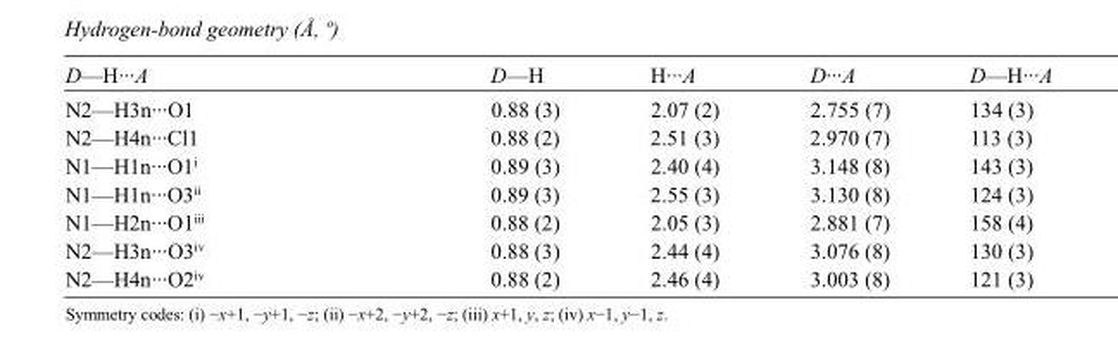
<table><tbody><tr><td>D—H···A</td><td>D—H</td><td>H···A</td><td>D···A</td><td>D—H···A</td></tr><tr><td>N2—H3n···O1</td><td>0.88 (3)</td><td>2.07 (2)</td><td>2.755 (7)</td><td>134 (3)</td></tr><tr><td>N2—H4n···Cl1</td><td>0.88 (2)</td><td>2.51 (3)</td><td>2.970 (7)</td><td>113 (3)</td></tr><tr><td>N1—H1n···O1<sup>i</sup></td><td>0.89 (3)</td><td>2.40 (4)</td><td>3.148 (8)</td><td>143 (3)</td></tr><tr><td>N1—H1n···O3<sup>ii</sup></td><td>0.89 (3)</td><td>2.55 (3)</td><td>3.130 (8)</td><td>124 (3)</td></tr><tr><td>N1—H2n···O1<sup>iii</sup></td><td>0.88 (2)</td><td>2.05 (3)</td><td>2.881 (7)</td><td>158 (4)</td></tr><tr><td>N2—H3n···O3<sup>iv</sup></td><td>0.88 (3)</td><td>2.44 (4)</td><td>3.076 (8)</td><td>130 (3)</td></tr><tr><td>N2—H4n···O2<sup>iv</sup></td><td>0.88 (2)</td><td>2.46 (4)</td><td>3.003 (8)</td><td>121 (3)</td></tr></tbody></table>